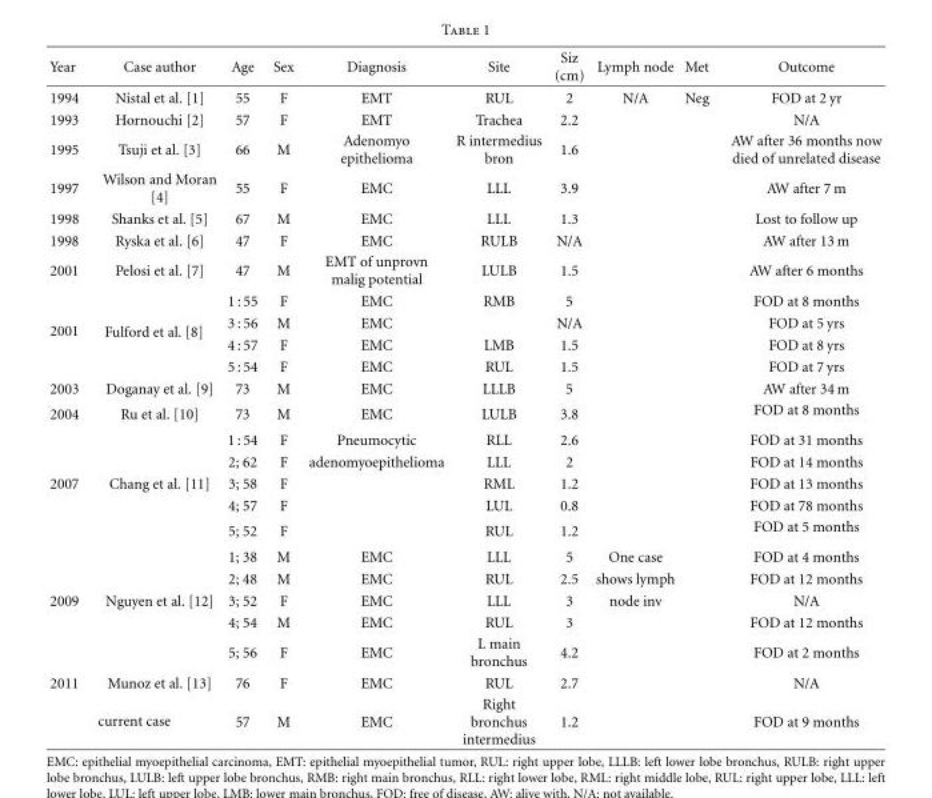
<table><thead><tr><td>Year</td><td>Case author</td><td>Age</td><td>Sex</td><td>Diagnosis</td><td>Site</td><td>Siz (cm)</td><td>Lymph node</td><td>Met</td><td>Outcome</td></tr></thead><tbody><tr><td>1994</td><td>Nistal et al. [1]</td><td>55</td><td>F</td><td>EMT</td><td>RUL</td><td>2</td><td>N/A</td><td>Neg</td><td>FOD at 2 yr</td></tr><tr><td>1993</td><td>Hornouchi [2]</td><td>57</td><td>F</td><td>EMT</td><td>Trachea</td><td>2.2</td><td></td><td></td><td>N/A</td></tr><tr><td>1995</td><td>Tsuji et al. [3]</td><td>66</td><td>M</td><td>Adenomyo epithelioma</td><td>R intermedius bron</td><td>1.6</td><td></td><td></td><td>AW after 36 months now died of unrelated disease</td></tr><tr><td>1997</td><td>Wilson and Moran [4]</td><td>55</td><td>F</td><td>EMC</td><td>LLL</td><td>3.9</td><td></td><td></td><td>AW after 7 m</td></tr><tr><td>1998</td><td>Shanks et al. [5]</td><td>67</td><td>M</td><td>EMC</td><td>LLL</td><td>1.3</td><td></td><td></td><td>Lost to follow up</td></tr><tr><td>1998</td><td>Ryska et al. [6]</td><td>47</td><td>F</td><td>EMC</td><td>RULB</td><td>N/A</td><td></td><td></td><td>AW after 13 m</td></tr><tr><td>2001</td><td>Pelosi et al. [7]</td><td>47</td><td>M</td><td>EMT of unprovn malig potential</td><td>LULB</td><td>1.5</td><td></td><td></td><td>AW after 6 months</td></tr><tr><td rowspan="4">2001</td><td rowspan="4">Fulford et al. [8]</td><td>1 : 55</td><td>F</td><td>EMC</td><td>RMB</td><td>5</td><td></td><td></td><td>FOD at 8 months</td></tr><tr><td>3 : 56</td><td>M</td><td>EMC</td><td></td><td>N/A</td><td></td><td></td><td>FOD at 5 yrs</td></tr><tr><td>4 : 57</td><td>F</td><td>EMC</td><td>LMB</td><td>1.5</td><td></td><td></td><td>FOD at 8 yrs</td></tr><tr><td>5 : 54</td><td>F</td><td>EMC</td><td>RUL</td><td>1.5</td><td></td><td></td><td>FOD at 7 yrs</td></tr><tr><td>2003</td><td>Doganay et al. [9]</td><td>73</td><td>M</td><td>EMC</td><td>LLLB</td><td>5</td><td></td><td></td><td>AW after 34 m</td></tr><tr><td rowspan="3">2004</td><td>Ru et al. [10]</td><td>73</td><td>M</td><td>EMC</td><td>LULB</td><td>3.8</td><td></td><td></td><td>FOD at 8 months</td></tr><tr><td></td><td>1 : 54</td><td>F</td><td>Pneumocytic</td><td>RLL</td><td>2.6</td><td></td><td></td><td>FOD at 31 months</td></tr><tr><td></td><td>2; 62</td><td>F</td><td>adenomyoepithelioma</td><td>LLL</td><td>2</td><td></td><td></td><td>FOD at 14 months</td></tr><tr><td rowspan="5">2007</td><td>Chang et al. [11]</td><td>3; 58</td><td>F</td><td></td><td>RML</td><td>1.2</td><td></td><td></td><td>FOD at 13 months</td></tr><tr><td></td><td>4; 57</td><td>F</td><td></td><td>LUL</td><td>0.8</td><td></td><td></td><td>FOD at 78 months</td></tr><tr><td></td><td>5; 52</td><td>F</td><td></td><td>RUL</td><td>1.2</td><td></td><td></td><td>FOD at 5 months</td></tr><tr><td></td><td>1; 38</td><td>M</td><td>EMC</td><td>LLL</td><td>5</td><td>One case</td><td></td><td>FOD at 4 months</td></tr><tr><td></td><td>2; 48</td><td>M</td><td>EMC</td><td>RUL</td><td>2.5</td><td>shows lymph</td><td></td><td>FOD at 12 months</td></tr><tr><td rowspan="3">2009</td><td>Nguyen et al. [12]</td><td>3; 52</td><td>F</td><td>EMC</td><td>LLL</td><td>3</td><td>node inv</td><td></td><td>N/A</td></tr><tr><td></td><td>4; 54</td><td>M</td><td>EMC</td><td>RUL</td><td>3</td><td></td><td></td><td>FOD at 12 months</td></tr><tr><td></td><td>5; 56</td><td>F</td><td>EMC</td><td>L main bronchus</td><td>4.2</td><td></td><td></td><td>FOD at 2 months</td></tr><tr><td>2011</td><td>Munoz et al. [13]</td><td>76</td><td>F</td><td>EMC</td><td>RUL</td><td>2.7</td><td></td><td></td><td>N/A</td></tr><tr><td colspan="2">current case</td><td>57</td><td>M</td><td>EMC</td><td>Right bronchus intermedius</td><td>1.2</td><td></td><td></td><td>FOD at 9 months</td></tr></tbody></table>